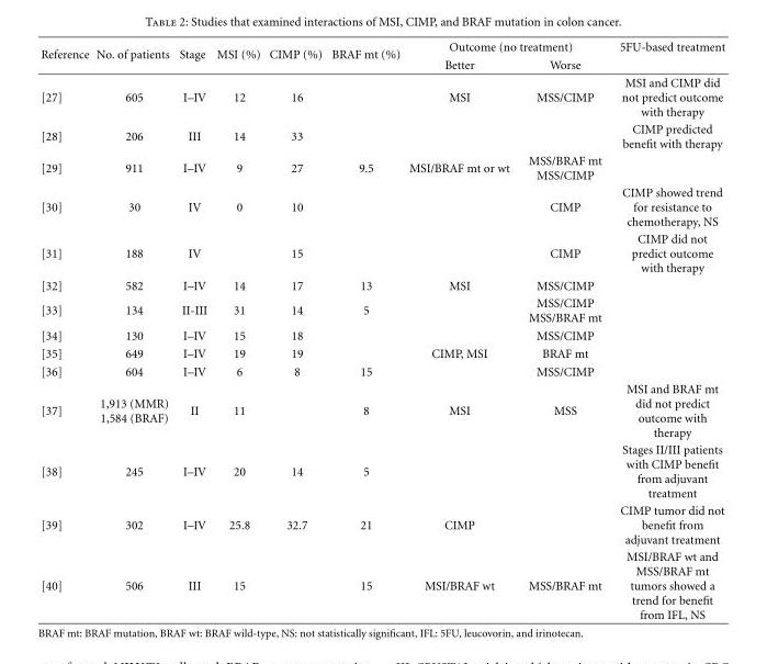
<table><thead><tr><td rowspan="2">Reference</td><td rowspan="2">No. of patients</td><td rowspan="2">Stage</td><td rowspan="2">MSI (%)</td><td rowspan="2">CIMP (%)</td><td rowspan="2">BRAF mt (%)</td><td colspan="2">Outcome (no treatment)</td><td rowspan="2">5FU-based treatment</td></tr><tr><td>Better</td><td>Worse</td></tr></thead><tbody><tr><td>[27]</td><td>605</td><td>I–IV</td><td>12</td><td>16</td><td></td><td>MSI</td><td>MSS/CIMP</td><td>MSI and CIMP did not predict outcome with therapy</td></tr><tr><td>[28]</td><td>206</td><td>III</td><td>14</td><td>33</td><td></td><td></td><td></td><td>CIMP predicted benefit with therapy</td></tr><tr><td>[29]</td><td>911</td><td>I–IV</td><td>9</td><td>27</td><td>9.5</td><td>MSI/BRAF mt or wt</td><td>MSS/BRAF mt MSS/CIMP</td><td></td></tr><tr><td>[30]</td><td>30</td><td>IV</td><td>0</td><td>10</td><td></td><td></td><td>CIMP</td><td>CIMP showed trend for resistance to chemotherapy, NS</td></tr><tr><td>[31]</td><td>188</td><td>IV</td><td></td><td>15</td><td></td><td></td><td>CIMP</td><td>CIMP did not predict outcome with therapy</td></tr><tr><td>[32]</td><td>582</td><td>I–IV</td><td>14</td><td>17</td><td>13</td><td>MSI</td><td>MSS/CIMP</td><td></td></tr><tr><td>[33]</td><td>134</td><td>II-III</td><td>31</td><td>14</td><td>5</td><td></td><td>MSS/CIMP MSS/BRAF mt</td><td></td></tr><tr><td>[34]</td><td>130</td><td>I–IV</td><td>15</td><td>18</td><td></td><td></td><td>MSS/CIMP</td><td></td></tr><tr><td>[35]</td><td>649</td><td>I–IV</td><td>19</td><td>19</td><td></td><td>CIMP, MSI</td><td>BRAF mt</td><td></td></tr><tr><td>[36]</td><td>604</td><td>I–IV</td><td>6</td><td>8</td><td>15</td><td></td><td>MSS/CIMP</td><td></td></tr><tr><td>[37]</td><td>1,913 (MMR) 1,584 (BRAF)</td><td>II</td><td>11</td><td></td><td>8</td><td>MSI</td><td>MSS</td><td>MSI and BRAF mt did not predict outcome with therapy</td></tr><tr><td>[38]</td><td>245</td><td>I–IV</td><td>20</td><td>14</td><td>5</td><td></td><td></td><td>Stages II/III patients with CIMP benefit from adjuvant treatment</td></tr><tr><td>[39]</td><td>302</td><td>I–IV</td><td>25.8</td><td>32.7</td><td>21</td><td>CIMP</td><td></td><td>CIMP tumor did not benefit from adjuvant treatment</td></tr><tr><td>[40]</td><td>506</td><td>III</td><td>15</td><td></td><td>15</td><td>MSI/BRAF wt</td><td>MSS/BRAF mt</td><td>MSI/BRAF wt and MSS/BRAF mt tumors showed a trend for benefit from IFL, NS</td></tr></tbody></table>